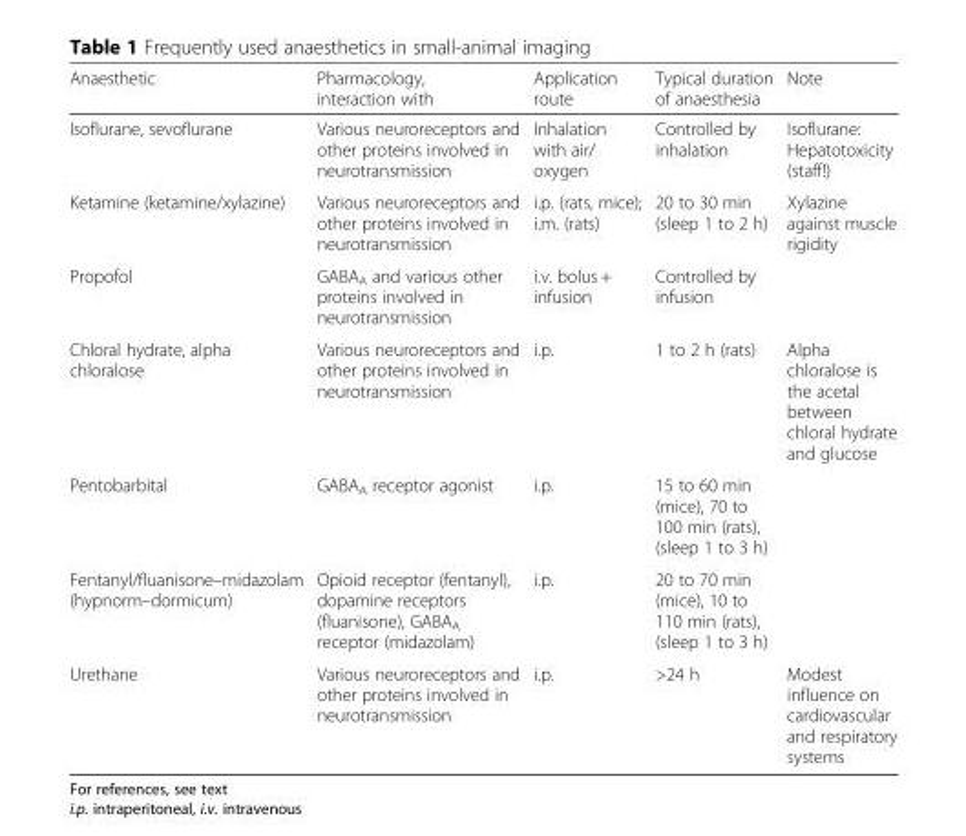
<table><thead><tr><td>Anaesthetic</td><td>Pharmacology, interaction with</td><td>Application route</td><td>Typical duration of anaesthesia</td><td>Note</td></tr></thead><tbody><tr><td>Isoflurane, sevoflurane</td><td>Various neuroreceptors and other proteins involved in neurotransmission</td><td>Inhalation with air/ oxygen</td><td>Controlled by inhalation</td><td>Isoflurane: Hepatotoxicity (staff!)</td></tr><tr><td>Ketamine (ketamine/xylazine)</td><td>Various neuroreceptors and other proteins involved in neurotransmission</td><td>i.p. (rats, mice); i.m. (rats)</td><td>20 to 30 min (sleep 1 to 2 h)</td><td>Xylazine against muscle rigidity</td></tr><tr><td>Propofol</td><td>GABA<sub>A</sub> and various other proteins involved in neurotransmission</td><td>i.v. bolus + infusion</td><td>Controlled by infusion</td><td></td></tr><tr><td>Chloral hydrate, alpha chloralose</td><td>Various neuroreceptors and other proteins involved in neurotransmission</td><td>i.p.</td><td>1 to 2 h (rats)</td><td>Alpha chloralose is the acetal between chloral hydrate and glucose</td></tr><tr><td>Pentobarbital</td><td>GABA<sub>A</sub> receptor agonist</td><td>i.p.</td><td>15 to 60 min (mice), 70 to 100 min (rats), (sleep 1 to 3 h)</td><td></td></tr><tr><td>Fentanyl/fluanisone–midazolam (hypnorm–dormicum)</td><td>Opioid receptor (fentanyl), dopamine receptors (fluanisone), GABA<sub>A</sub> receptor (midazolam)</td><td>i.p.</td><td>20 to 70 min (mice), 10 to 110 min (rats), (sleep 1 to 3 h)</td><td></td></tr><tr><td>Urethane</td><td>Various neuroreceptors and other proteins involved in neurotransmission</td><td>i.p.</td><td>&gt;24 h</td><td>Modest influence on cardiovascular and respiratory systems</td></tr></tbody></table>